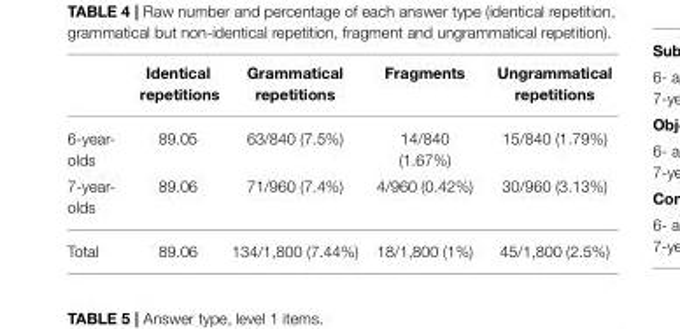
<table><thead><tr><td></td><td>Identical repetitions</td><td>Grammatical repetitions</td><td>Fragments</td><td>Ungrammatical repetitions</td></tr></thead><tbody><tr><td>6-year- olds</td><td>89.05</td><td>63/840 (7.5%)</td><td>14/840 (1.67%)</td><td>15/840 (1.79%)</td></tr><tr><td>7-year- olds</td><td>89.06</td><td>71/960 (7.4%)</td><td>4/960 (0.42%)</td><td>30/960 (3.13%)</td></tr><tr><td>Total</td><td>89.06</td><td>134/1,800 (7.44%)</td><td>18/1,800 (1%)</td><td>45/1,800 (2.5%)</td></tr></tbody></table>